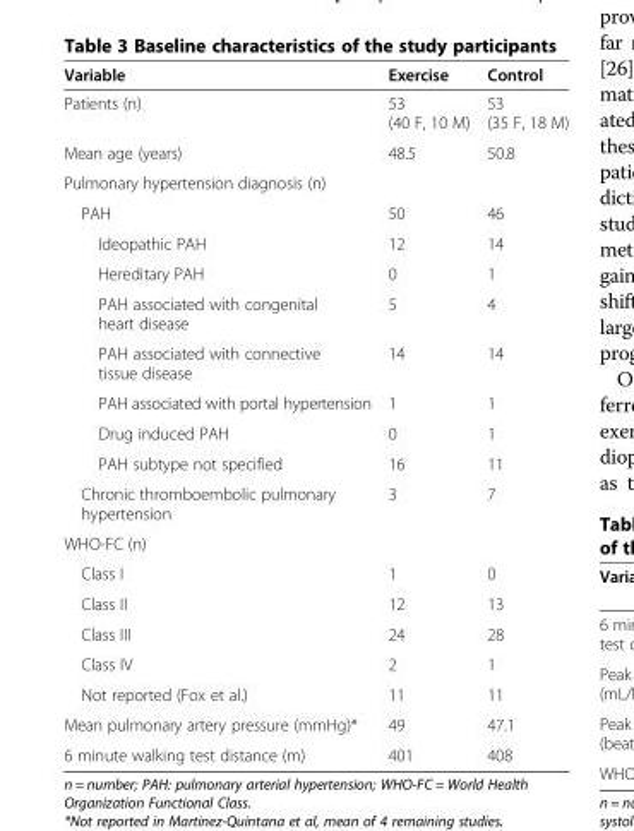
<table><thead><tr><td>Variable</td><td>Exercise</td><td>Control</td></tr></thead><tbody><tr><td>Patients (n)</td><td>53 (40 F, 10 M)</td><td>53 (35 F, 18 M)</td></tr><tr><td>Mean age (years)</td><td>48.5</td><td>50.8</td></tr><tr><td colspan="3">Pulmonary hypertension diagnosis (n)</td></tr><tr><td>PAH</td><td>50</td><td>46</td></tr><tr><td>Ideopathic PAH</td><td>12</td><td>14</td></tr><tr><td>Hereditary PAH</td><td>0</td><td>1</td></tr><tr><td>PAH associated with congenital heart disease</td><td>5</td><td>4</td></tr><tr><td>PAH associated with connective tissue disease</td><td>14</td><td>14</td></tr><tr><td>PAH associated with portal hypertension</td><td>1</td><td>1</td></tr><tr><td>Drug induced PAH</td><td>0</td><td>1</td></tr><tr><td>PAH subtype not specified</td><td>16</td><td>11</td></tr><tr><td>Chronic thromboembolic pulmonary hypertension</td><td>3</td><td>7</td></tr><tr><td colspan="3">WHO-FC (n)</td></tr><tr><td>Class I</td><td>1</td><td>0</td></tr><tr><td>Class II</td><td>12</td><td>13</td></tr><tr><td>Class III</td><td>24</td><td>28</td></tr><tr><td>Class IV</td><td>2</td><td>1</td></tr><tr><td>Not reported (Fox et al.)</td><td>11</td><td>11</td></tr><tr><td>Mean pulmonary artery pressure (mmHg)*</td><td>49</td><td>47.1</td></tr><tr><td>6 minute walking test distance (m)</td><td>401</td><td>408</td></tr></tbody></table>